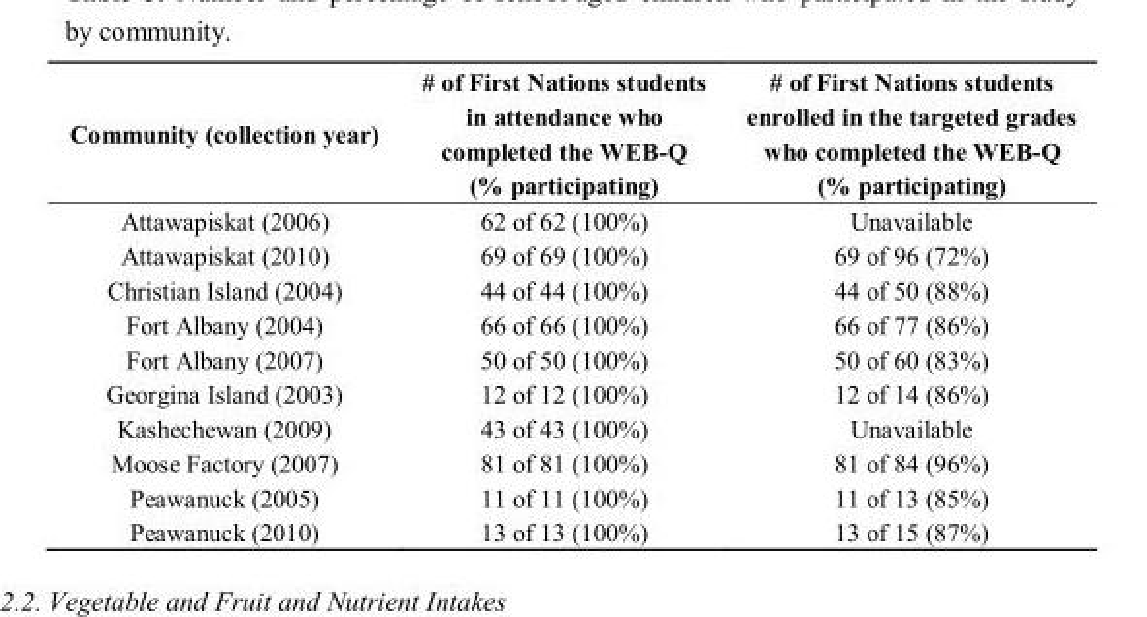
<table><thead><tr><td>Community (collection year)</td><td># of First Nations students in attendance who completed the WEB-Q (% participating)</td><td># of First Nations students enrolled in the targeted grades who completed the WEB-Q (% participating)</td></tr></thead><tbody><tr><td>Attawapiskat (2006)</td><td>62 of 62 (100%)</td><td>Unavailable</td></tr><tr><td>Attawapiskat (2010)</td><td>69 of 69 (100%)</td><td>69 of 96 (72%)</td></tr><tr><td>Christian Island (2004)</td><td>44 of 44 (100%)</td><td>44 of 50 (88%)</td></tr><tr><td>Fort Albany (2004)</td><td>66 of 66 (100%)</td><td>66 of 77 (86%)</td></tr><tr><td>Fort Albany (2007)</td><td>50 of 50 (100%)</td><td>50 of 60 (83%)</td></tr><tr><td>Georgina Island (2003)</td><td>12 of 12 (100%)</td><td>12 of 14 (86%)</td></tr><tr><td>Kashechewan (2009)</td><td>43 of 43 (100%)</td><td>Unavailable</td></tr><tr><td>Moose Factory (2007)</td><td>81 of 81 (100%)</td><td>81 of 84 (96%)</td></tr><tr><td>Peawanuck (2005)</td><td>11 of 11 (100%)</td><td>11 of 13 (85%)</td></tr><tr><td>Peawanuck (2010)</td><td>13 of 13 (100%)</td><td>13 of 15 (87%)</td></tr></tbody></table>